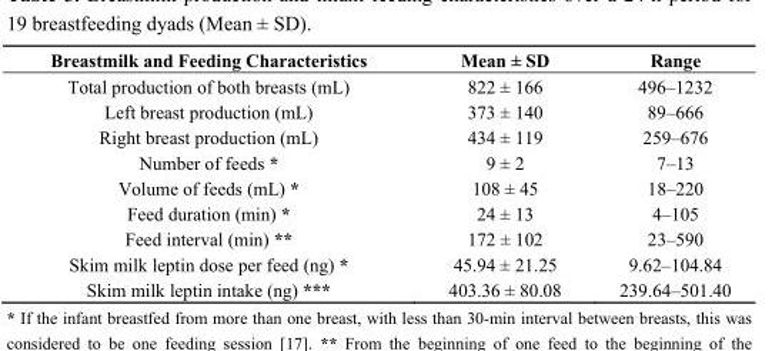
<table><thead><tr><td>Breastmilk and Feeding Characteristics</td><td>Mean ± SD</td><td>Range</td></tr></thead><tbody><tr><td>Total production of both breasts (mL)</td><td>822 ± 166</td><td>496–1232</td></tr><tr><td>Left breast production (mL)</td><td>373 ± 140</td><td>89–666</td></tr><tr><td>Right breast production (mL)</td><td>434 ± 119</td><td>259–676</td></tr><tr><td>Number of feeds *</td><td>9 ± 2</td><td>7–13</td></tr><tr><td>Volume of feeds (mL) *</td><td>108 ± 45</td><td>18–220</td></tr><tr><td>Feed duration (min) *</td><td>24 ± 13</td><td>4–105</td></tr><tr><td>Feed interval (min) **</td><td>172 ± 102</td><td>23–590</td></tr><tr><td>Skim milk leptin dose per feed (ng) *</td><td>45.94 ± 21.25</td><td>9.62–104.84</td></tr><tr><td>Skim milk leptin intake (ng) ***</td><td>403.36 ± 80.08</td><td>239.64–501.40</td></tr></tbody></table>